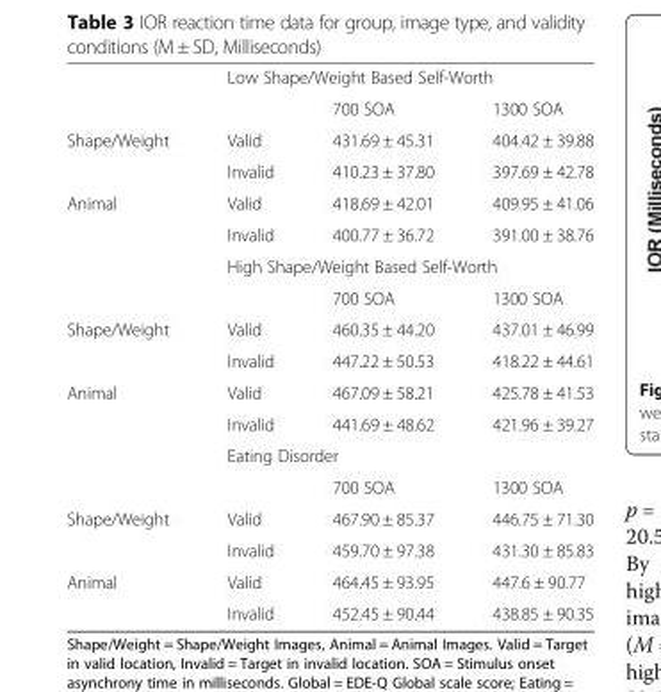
<table><thead><tr><td rowspan="2"></td><td colspan="3">Low Shape/Weight Based Self-Worth</td></tr><tr><td></td><td>700 SOA</td><td>1300 SOA</td></tr></thead><tbody><tr><td rowspan="2">Shape/Weight</td><td>Valid</td><td>431.69 ± 45.31</td><td>404.42 ± 39.88</td></tr><tr><td>Invalid</td><td>410.23 ± 37.80</td><td>397.69 ± 42.78</td></tr><tr><td rowspan="4">Animal</td><td>Valid</td><td>418.69 ± 42.01</td><td>409.95 ± 41.06</td></tr><tr><td>Invalid</td><td>400.77 ± 36.72</td><td>391.00 ± 38.76</td></tr><tr><td colspan="3">High Shape/Weight Based Self-Worth</td></tr><tr><td></td><td>700 SOA</td><td>1300 SOA</td></tr><tr><td rowspan="2">Shape/Weight</td><td>Valid</td><td>460.35 ± 44.20</td><td>437.01 ± 46.99</td></tr><tr><td>Invalid</td><td>447.22 ± 50.53</td><td>418.22 ± 44.61</td></tr><tr><td rowspan="4">Animal</td><td>Valid</td><td>467.09 ± 58.21</td><td>425.78 ± 41.53</td></tr><tr><td>Invalid</td><td>441.69 ± 48.62</td><td>421.96 ± 39.27</td></tr><tr><td colspan="3">Eating Disorder</td></tr><tr><td></td><td>700 SOA</td><td>1300 SOA</td></tr><tr><td rowspan="2">Shape/Weight</td><td>Valid</td><td>467.90 ± 85.37</td><td>446.75 ± 71.30</td></tr><tr><td>Invalid</td><td>459.70 ± 97.38</td><td>431.30 ± 85.83</td></tr><tr><td rowspan="2">Animal</td><td>Valid</td><td>464.45 ± 93.95</td><td>447.6 ± 90.77</td></tr><tr><td>Invalid</td><td>452.45 ± 90.44</td><td>438.85 ± 90.35</td></tr></tbody></table>